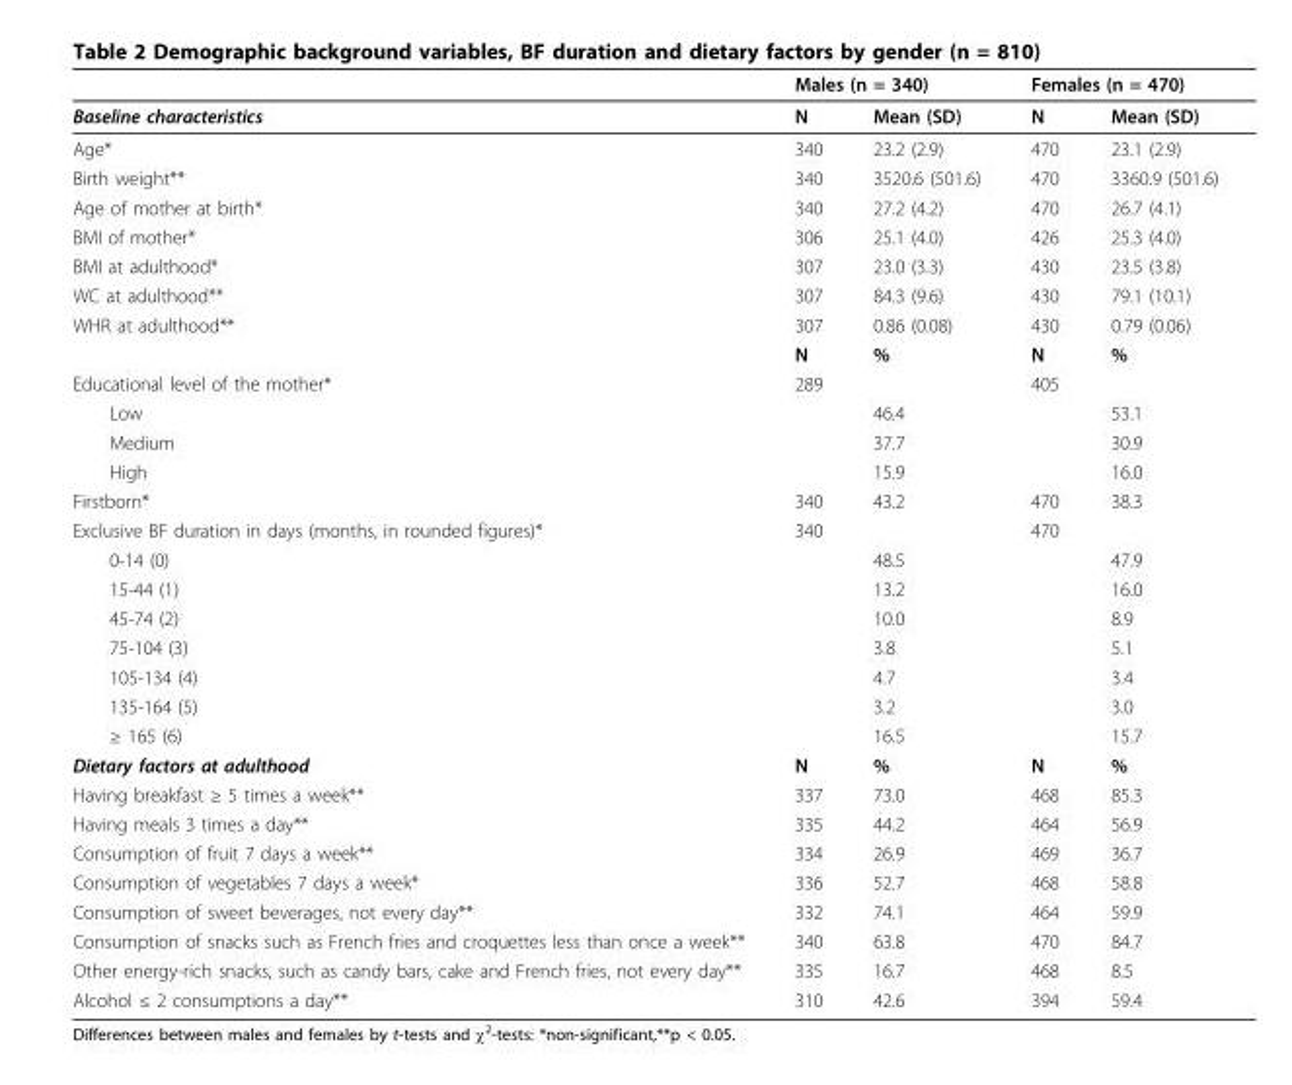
<table><thead><tr><td rowspan="2">Baseline characteristics</td><td colspan="2">Males (n = 340)</td><td colspan="2">Females (n = 470)</td></tr><tr><td>N</td><td>Mean (SD)</td><td>N</td><td>Mean (SD)</td></tr></thead><tbody><tr><td>Age*</td><td>340</td><td>23.2 (2.9)</td><td>470</td><td>23.1 (2.9)</td></tr><tr><td>Birth weight**</td><td>340</td><td>3520.6 (501.6)</td><td>470</td><td>3360.9 (501.6)</td></tr><tr><td>Age of mother at birth*</td><td>340</td><td>27.2 (4.2)</td><td>470</td><td>26.7 (4.1)</td></tr><tr><td>BMI of mother*</td><td>306</td><td>25.1 (4.0)</td><td>426</td><td>25.3 (4.0)</td></tr><tr><td>BMI at adulthood*</td><td>307</td><td>23.0 (3.3)</td><td>430</td><td>23.5 (3.8)</td></tr><tr><td>WC at adulthood**</td><td>307</td><td>84.3 (9.6)</td><td>430</td><td>79.1 (10.1)</td></tr><tr><td rowspan="2">WHR at adulthood**</td><td>307</td><td>0.86 (0.08)</td><td>430</td><td>0.79 (0.06)</td></tr><tr><td>N</td><td>%</td><td>N</td><td>%</td></tr><tr><td>Educational level of the mother*</td><td>289</td><td></td><td>405</td><td></td></tr><tr><td>Low</td><td></td><td>46.4</td><td></td><td>53.1</td></tr><tr><td>Medium</td><td></td><td>37.7</td><td></td><td>30.9</td></tr><tr><td>High</td><td></td><td>15.9</td><td></td><td>16.0</td></tr><tr><td>Firstborn*</td><td>340</td><td>43.2</td><td>470</td><td>38.3</td></tr><tr><td>Exclusive BF duration in days (months, in rounded figures)*</td><td>340</td><td></td><td>470</td><td></td></tr><tr><td>0-14 (0)</td><td></td><td>48.5</td><td></td><td>47.9</td></tr><tr><td>15-44 (1)</td><td></td><td>13.2</td><td></td><td>16.0</td></tr><tr><td>45-74 (2)</td><td></td><td>10.0</td><td></td><td>8.9</td></tr><tr><td>75-104 (3)</td><td></td><td>3.8</td><td></td><td>5.1</td></tr><tr><td>105-134 (4)</td><td></td><td>4.7</td><td></td><td>3.4</td></tr><tr><td>135-164 (5)</td><td></td><td>3.2</td><td></td><td>3.0</td></tr><tr><td>≥ 165 (6)</td><td></td><td>16.5</td><td></td><td>15.7</td></tr><tr><td>Dietary factors at adulthood</td><td>N</td><td>%</td><td>N</td><td>%</td></tr><tr><td>Having breakfast ≥ 5 times a week**</td><td>337</td><td>73.0</td><td>468</td><td>85.3</td></tr><tr><td>Having meals 3 times a day**</td><td>335</td><td>44.2</td><td>464</td><td>56.9</td></tr><tr><td>Consumption of fruit 7 days a week**</td><td>334</td><td>26.9</td><td>469</td><td>36.7</td></tr><tr><td>Consumption of vegetables 7 days a week*</td><td>336</td><td>52.7</td><td>468</td><td>58.8</td></tr><tr><td>Consumption of sweet beverages, not every day**</td><td>332</td><td>74.1</td><td>464</td><td>59.9</td></tr><tr><td>Consumption of snacks such as French fries and croquettes less than once a week**</td><td>340</td><td>63.8</td><td>470</td><td>84.7</td></tr><tr><td>Other energy-rich snacks, such as candy bars, cake and French fries, not every day**</td><td>335</td><td>16.7</td><td>468</td><td>8.5</td></tr><tr><td>Alcohol ≤ 2 consumptions a day**</td><td>310</td><td>42.6</td><td>394</td><td>59.4</td></tr></tbody></table>